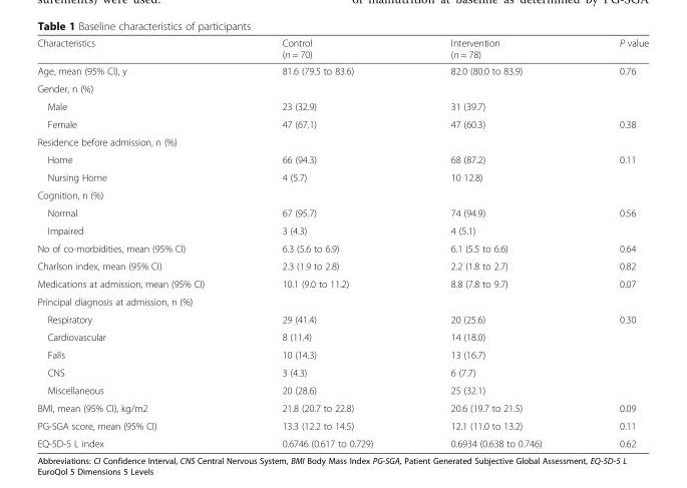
<table><thead><tr><td>Characteristics</td><td>Control (n = 70)</td><td>Intervention (n = 78)</td><td>P value</td></tr></thead><tbody><tr><td>Age, mean (95% CI), y</td><td>81.6 (79.5 to 83.6)</td><td>82.0 (80.0 to 83.9)</td><td>0.76</td></tr><tr><td colspan="4">Gender, n (%)</td></tr><tr><td>Male</td><td>23 (32.9)</td><td>31 (39.7)</td><td></td></tr><tr><td>Female</td><td>47 (67.1)</td><td>47 (60.3)</td><td>0.38</td></tr><tr><td colspan="4">Residence before admission, n (%)</td></tr><tr><td>Home</td><td>66 (94.3)</td><td>68 (87.2)</td><td>0.11</td></tr><tr><td>Nursing Home</td><td>4 (5.7)</td><td>10 12.8)</td><td></td></tr><tr><td colspan="4">Cognition, n (%)</td></tr><tr><td>Normal</td><td>67 (95.7)</td><td>74 (94.9)</td><td>0.56</td></tr><tr><td>Impaired</td><td>3 (4.3)</td><td>4 (5.1)</td><td></td></tr><tr><td>No of co-morbidities, mean (95% CI)</td><td>6.3 (5.6 to 6.9)</td><td>6.1 (5.5 to 6.6)</td><td>0.64</td></tr><tr><td>Charlson index, mean (95% CI)</td><td>2.3 (1.9 to 2.8)</td><td>2.2 (1.8 to 2.7)</td><td>0.82</td></tr><tr><td>Medications at admission, mean (95% CI)</td><td>10.1 (9.0 to 11.2)</td><td>8.8 (7.8 to 9.7)</td><td>0.07</td></tr><tr><td colspan="4">Principal diagnosis at admission, n (%)</td></tr><tr><td>Respiratory</td><td>29 (41.4)</td><td>20 (25.6)</td><td>0.30</td></tr><tr><td>Cardiovascular</td><td>8 (11.4)</td><td>14 (18.0)</td><td></td></tr><tr><td>Falls</td><td>10 (14.3)</td><td>13 (16.7)</td><td></td></tr><tr><td>CNS</td><td>3 (4.3)</td><td>6 (7.7)</td><td></td></tr><tr><td>Miscellaneous</td><td>20 (28.6)</td><td>25 (32.1)</td><td></td></tr><tr><td>BMI, mean (95% CI), kg/m2</td><td>21.8 (20.7 to 22.8)</td><td>20.6 (19.7 to 21.5)</td><td>0.09</td></tr><tr><td>PG-SGA score, mean (95% CI)</td><td>13.3 (12.2 to 14.5)</td><td>12.1 (11.0 to 13.2)</td><td>0.11</td></tr><tr><td>EQ-5D-5 L index</td><td>0.6746 (0.617 to 0.729)</td><td>0.6934 (0.638 to 0.746)</td><td>0.62</td></tr></tbody></table>